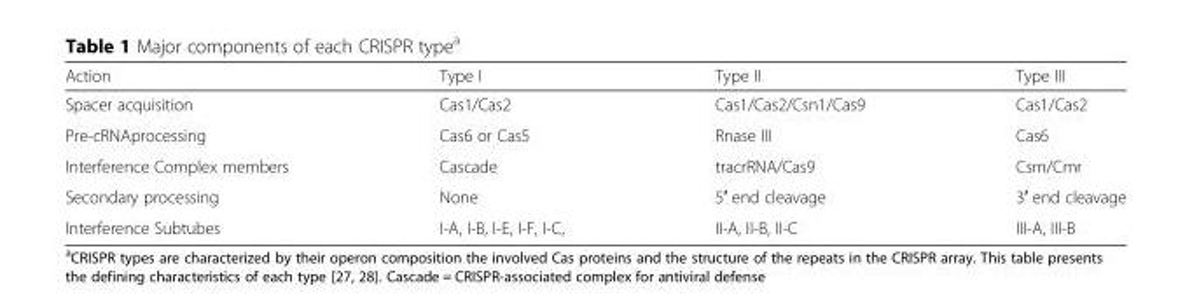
<table><thead><tr><td>Action</td><td>Type I</td><td>Type II</td><td>Type III</td></tr></thead><tbody><tr><td>Spacer acquisition</td><td>Cas1/Cas2</td><td>Cas1/Cas2/Csn1/Cas9</td><td>Cas1/Cas2</td></tr><tr><td>Pre-cRNAprocessing</td><td>Cas6 or Cas5</td><td>Rnase III</td><td>Cas6</td></tr><tr><td>Interference Complex members</td><td>Cascade</td><td>tracrRNA/Cas9</td><td>Csm/Cmr</td></tr><tr><td>Secondary processing</td><td>None</td><td>5′ end cleavage</td><td>3′ end cleavage</td></tr><tr><td>Interference Subtubes</td><td>I-A, I-B, I-E, I-F, I-C,</td><td>II-A, II-B, II-C</td><td>III-A, III-B</td></tr></tbody></table>